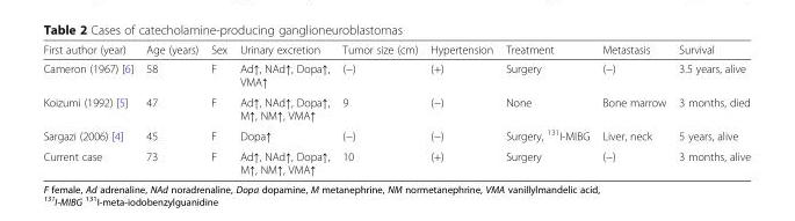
<table><thead><tr><td>First author (year)</td><td>Age (years)</td><td>Sex</td><td>Urinary excretion</td><td>Tumor size (cm)</td><td>Hypertension</td><td>Treatment</td><td>Metastasis</td><td>Survival</td></tr></thead><tbody><tr><td>Cameron (1967) [6]</td><td>58</td><td>F</td><td>Ad↑, NAd↑, Dopa↑, VMA↑</td><td>(−)</td><td>(+)</td><td>Surgery</td><td>(−)</td><td>3.5 years, alive</td></tr><tr><td>Koizumi (1992) [5]</td><td>47</td><td>F</td><td>Ad↑, NAd↑, Dopa↑, M↑, NM↑, VMA↑</td><td>9</td><td>(−)</td><td>None</td><td>Bone marrow</td><td>3 months, died</td></tr><tr><td>Sargazi (2006) [4]</td><td>45</td><td>F</td><td>Dopa↑</td><td>(−)</td><td>(−)</td><td>Surgery, <sup>131</sup>I-MIBG</td><td>Liver, neck</td><td>5 years, alive</td></tr><tr><td>Current case</td><td>73</td><td>F</td><td>Ad↑, NAd↑, Dopa↑, M↑, NM↑, VMA↑</td><td>10</td><td>(+)</td><td>Surgery</td><td>(−)</td><td>3 months, alive</td></tr></tbody></table>